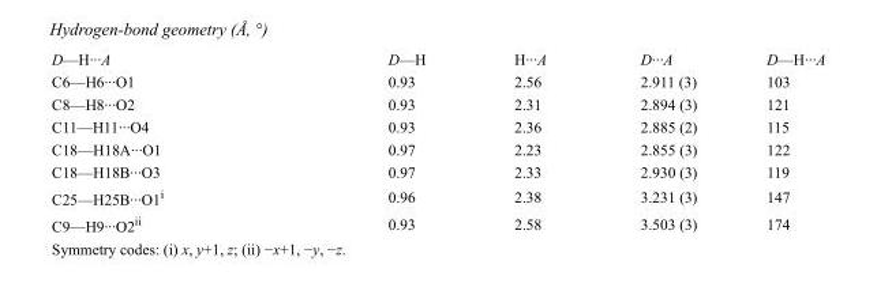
<table><tbody><tr><td>D—H···A</td><td>D—H</td><td>H···A</td><td>D···A</td><td>D—H···A</td></tr><tr><td>C6—H6···O1</td><td>0.93</td><td>2.56</td><td>2.911 (3)</td><td>103</td></tr><tr><td>C8—H8···O2</td><td>0.93</td><td>2.31</td><td>2.894 (3)</td><td>121</td></tr><tr><td>C11—H11···O4</td><td>0.93</td><td>2.36</td><td>2.885 (2)</td><td>115</td></tr><tr><td>C18—H18A···O1</td><td>0.97</td><td>2.23</td><td>2.855 (3)</td><td>122</td></tr><tr><td>C18—H18B···O3</td><td>0.97</td><td>2.33</td><td>2.930 (3)</td><td>119</td></tr><tr><td>C25—H25B···O1<sup>i</sup></td><td>0.96</td><td>2.38</td><td>3.231 (3)</td><td>147</td></tr><tr><td>C9—H9···O2<sup>ii</sup></td><td>0.93</td><td>2.58</td><td>3.503 (3)</td><td>174</td></tr></tbody></table>